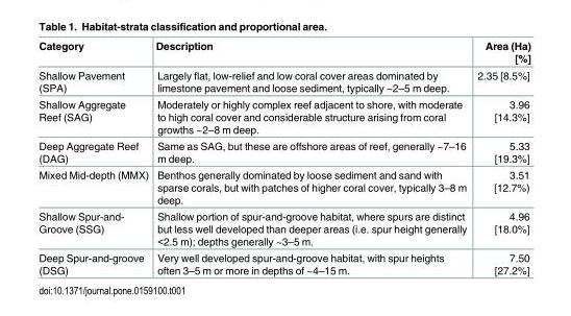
<table><thead><tr><td>Category</td><td>Description</td><td>Area (Ha) [%]</td></tr></thead><tbody><tr><td>Shallow Pavement (SPA)</td><td>Largely flat, low-relief and low coral cover areas dominated by limestone pavement and loose sediment, typically ~2–5 m deep.</td><td>2.35 [8.5%]</td></tr><tr><td>Shallow Aggregate Reef (SAG)</td><td>Moderately or highly complex reef adjacent to shore, with moderate to high coral cover and considerable structure arising from coral growths ~2–8 m deep.</td><td>3.96 [14.3%]</td></tr><tr><td>Deep Aggregate Reef (DAG)</td><td>Same as SAG, but these are offshore areas of reef, generally ~7–16 m deep.</td><td>5.33 [19.3%]</td></tr><tr><td>Mixed Mid-depth (MMX)</td><td>Benthos generally dominated by loose sediment and sand with sparse corals, but with patches of higher coral cover, typically 3–8 m deep.</td><td>3.51 [12.7%)</td></tr><tr><td>Shallow Spur-and- Groove (SSG)</td><td>Shallow portion of spur-and-groove habitat, where spurs are distinct but less well developed than deeper areas (i.e. spur height generally &lt;2.5 m); depths generally ~3–5 m.</td><td>4.96 [18.0%]</td></tr><tr><td>Deep Spur-and-groove (DSG)</td><td>Very well developed spur-and-groove habitat, with spur heights often 3–5 m or more in depths of ~4–15 m.</td><td>7.50 [27.2%]</td></tr></tbody></table>